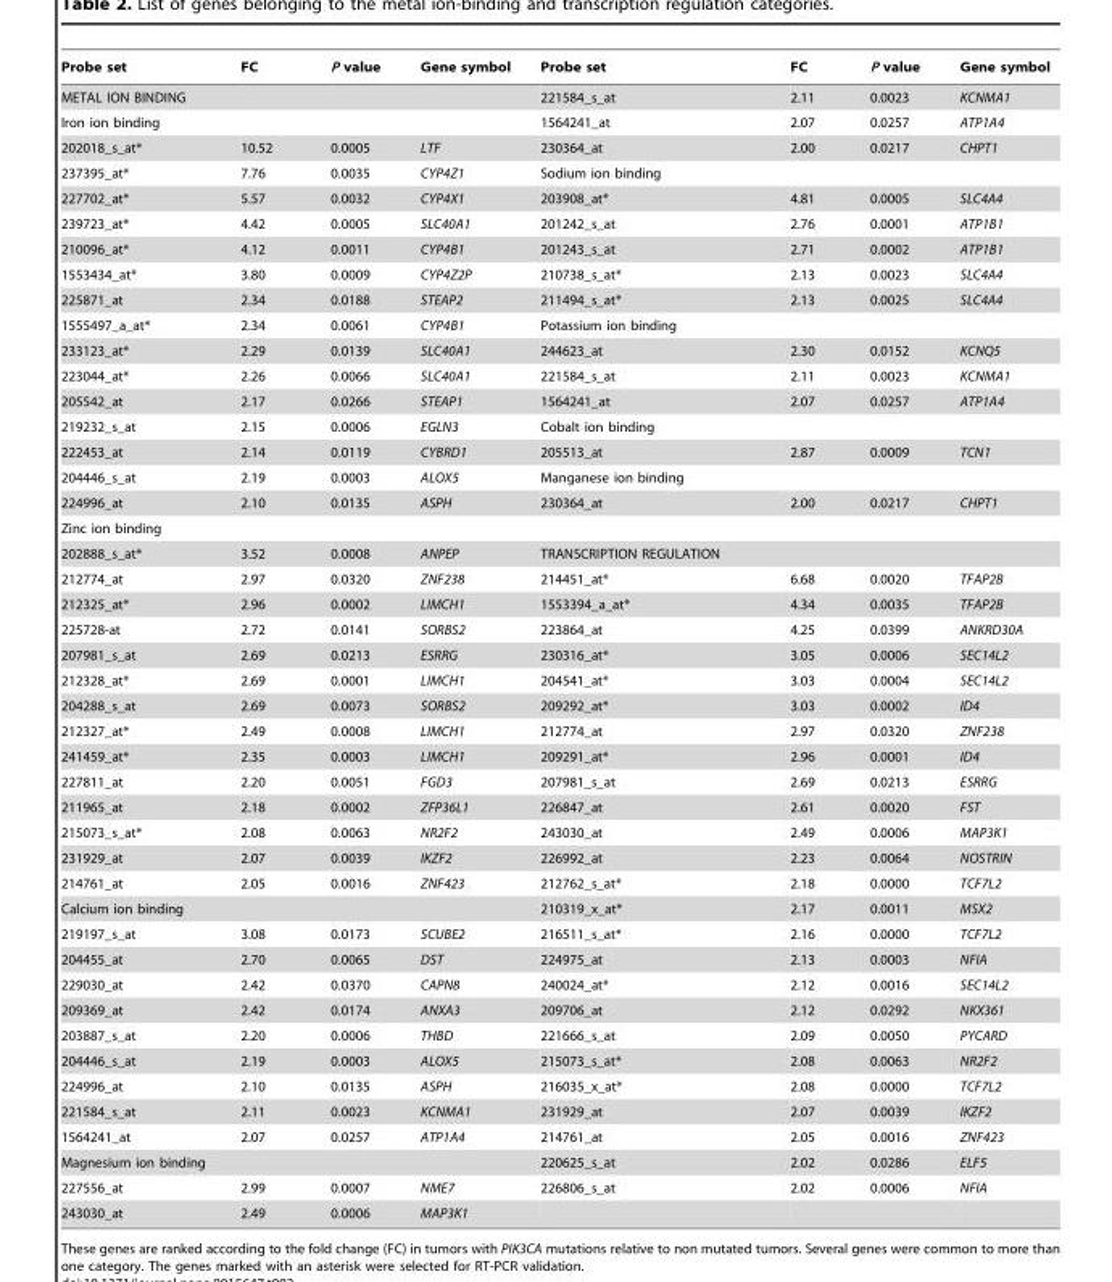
<table><thead><tr><td>Probe set</td><td>FC</td><td>P value</td><td>Gene symbol</td><td>Probe set</td><td>FC</td><td>P value</td><td>Gene symbol</td></tr></thead><tbody><tr><td colspan="4">METAL ION BINDING</td><td>221584_s_at</td><td>2.11</td><td>0.0023</td><td>KCNMA1</td></tr><tr><td colspan="4">Iron ion binding</td><td>1564241_at</td><td>2.07</td><td>0.0257</td><td>ATP1A4</td></tr><tr><td>202018_s_at*</td><td>10.52</td><td>0.0005</td><td>LTF</td><td>230364_at</td><td>2.00</td><td>0.0217</td><td>CHPT1</td></tr><tr><td>237395_at*</td><td>7.76</td><td>0.0035</td><td>CYP4Z1</td><td colspan="4">Sodium ion binding</td></tr><tr><td>227702_at*</td><td>5.57</td><td>0.0032</td><td>CYP4X1</td><td>203908_at*</td><td>4.81</td><td>0.0005</td><td>SLC4A4</td></tr><tr><td>239723_at*</td><td>4.42</td><td>0.0005</td><td>SLC40A1</td><td>201242_s_at</td><td>2.76</td><td>0.0001</td><td>ATP1B1</td></tr><tr><td>210096_at*</td><td>4.12</td><td>0.0011</td><td>CYP4B1</td><td>201243_s_at</td><td>2.71</td><td>0.0002</td><td>ATP1B1</td></tr><tr><td>1553434_at*</td><td>3.80</td><td>0.0009</td><td>CYP4Z2P</td><td>210738_s_at*</td><td>2.13</td><td>0.0023</td><td>SLC4A4</td></tr><tr><td>225871_at</td><td>2.34</td><td>0.0188</td><td>STEAP2</td><td>211494_s_at*</td><td>2.13</td><td>0.0025</td><td>SLC4A4</td></tr><tr><td>1555497_a_at*</td><td>2.34</td><td>0.0061</td><td>CYP4B1</td><td colspan="4">Potassium ion binding</td></tr><tr><td>233123_at*</td><td>2.29</td><td>0.0139</td><td>SLC40A1</td><td>244623_at</td><td>2.30</td><td>0.0152</td><td>KCNQ5</td></tr><tr><td>223044_at*</td><td>2.26</td><td>0.0066</td><td>SLC40A1</td><td>221584_s_at</td><td>2.11</td><td>0.0023</td><td>KCNMA1</td></tr><tr><td>205542_at</td><td>2.17</td><td>0.0266</td><td>STEAP1</td><td>1564241_at</td><td>2.07</td><td>0.0257</td><td>ATP1A4</td></tr><tr><td>219232_s_at</td><td>2.15</td><td>0.0006</td><td>EGLN3</td><td colspan="4">Cobalt ion binding</td></tr><tr><td>222453_at</td><td>2.14</td><td>0.0119</td><td>CYBRD1</td><td>205513_at</td><td>2.87</td><td>0.0009</td><td>TCN1</td></tr><tr><td>204446_s_at</td><td>2.19</td><td>0.0003</td><td>ALOX5</td><td colspan="4">Manganese ion binding</td></tr><tr><td>224996_at</td><td>2.10</td><td>0.0135</td><td>ASPH</td><td>230364_at</td><td>2.00</td><td>0.0217</td><td>CHPT1</td></tr><tr><td colspan="8">Zinc ion binding</td></tr><tr><td>202888_s_at*</td><td>3.52</td><td>0.0008</td><td>ANPEP</td><td colspan="4">TRANSCRIPTION REGULATION</td></tr><tr><td>212774_at</td><td>2.97</td><td>0.0320</td><td>ZNF238</td><td>214451_at*</td><td>6.68</td><td>0.0020</td><td>TFAP2B</td></tr><tr><td>212325_at*</td><td>2.96</td><td>0.0002</td><td>LIMCH1</td><td>1553394_a_at*</td><td>4.34</td><td>0.0035</td><td>TFAP2B</td></tr><tr><td>225728-at</td><td>2.72</td><td>0.0141</td><td>SORBS2</td><td>223864_at</td><td>4.25</td><td>0.0399</td><td>ANKRD30A</td></tr><tr><td>207981_s_at</td><td>2.69</td><td>0.0213</td><td>ESRRG</td><td>230316_at*</td><td>3.05</td><td>0.0006</td><td>SEC14L2</td></tr><tr><td>212328_at*</td><td>2.69</td><td>0.0001</td><td>LIMCH1</td><td>204541_at*</td><td>3.03</td><td>0.0004</td><td>SEC14L2</td></tr><tr><td>204288_s_at</td><td>2.69</td><td>0.0073</td><td>SORBS2</td><td>209292_at*</td><td>3.03</td><td>0.0002</td><td>ID4</td></tr><tr><td>212327_at*</td><td>2.49</td><td>0.0008</td><td>LIMCH1</td><td>212774_at</td><td>2.97</td><td>0.0320</td><td>ZNF238</td></tr><tr><td>241459_at*</td><td>2.35</td><td>0.0003</td><td>LIMCH1</td><td>209291_at*</td><td>2.96</td><td>0.0001</td><td>ID4</td></tr><tr><td>227811_at</td><td>2.20</td><td>0.0051</td><td>FGD3</td><td>207981_s_at</td><td>2.69</td><td>0.0213</td><td>ESRRG</td></tr><tr><td>211965_at</td><td>2.18</td><td>0.0002</td><td>ZFP36L1</td><td>226847_at</td><td>2.61</td><td>0.0020</td><td>FST</td></tr><tr><td>215073_s_at*</td><td>2.08</td><td>0.0063</td><td>NR2F2</td><td>243030_at</td><td>2.49</td><td>0.0006</td><td>MAP3K1</td></tr><tr><td>231929_at</td><td>2.07</td><td>0.0039</td><td>IKZF2</td><td>226992_at</td><td>2.23</td><td>0.0064</td><td>NOSTRIN</td></tr><tr><td>214761_at</td><td>2.05</td><td>0.0016</td><td>ZNF423</td><td>212762_s_at*</td><td>2.18</td><td>0.0000</td><td>TCF7L2</td></tr><tr><td colspan="4">Calcium ion binding</td><td>210319_x_at*</td><td>2.17</td><td>0.0011</td><td>MSX2</td></tr><tr><td>219197_s_at</td><td>3.08</td><td>0.0173</td><td>SCUBE2</td><td>216511_s_at*</td><td>2.16</td><td>0.0000</td><td>TCF7L2</td></tr><tr><td>204455_at</td><td>2.70</td><td>0.0065</td><td>DST</td><td>224975_at</td><td>2.13</td><td>0.0003</td><td>NFIA</td></tr><tr><td>229030_at</td><td>2.42</td><td>0.0370</td><td>CAPN8</td><td>240024_at*</td><td>2.12</td><td>0.0016</td><td>SEC14L2</td></tr><tr><td>209369_at</td><td>2.42</td><td>0.0174</td><td>ANXA3</td><td>209706_at</td><td>2.12</td><td>0.0292</td><td>NKX361</td></tr><tr><td>203887_s_at</td><td>2.20</td><td>0.0006</td><td>THBD</td><td>221666_s_at</td><td>2.09</td><td>0.0050</td><td>PYCARD</td></tr><tr><td>204446_s_at</td><td>2.19</td><td>0.0003</td><td>ALOX5</td><td>215073_s_at*</td><td>2.08</td><td>0.0063</td><td>NR2F2</td></tr><tr><td>224996_at</td><td>2.10</td><td>0.0135</td><td>ASPH</td><td>216035_x_at*</td><td>2.08</td><td>0.0000</td><td>TCF7L2</td></tr><tr><td>221584_s_at</td><td>2.11</td><td>0.0023</td><td>KCNMA1</td><td>231929_at</td><td>2.07</td><td>0.0039</td><td>IKZF2</td></tr><tr><td>1564241_at</td><td>2.07</td><td>0.0257</td><td>ATP1A4</td><td>214761_at</td><td>2.05</td><td>0.0016</td><td>ZNF423</td></tr><tr><td colspan="4">Magnesium ion binding</td><td>220625_s_at</td><td>2.02</td><td>0.0286</td><td>ELF5</td></tr><tr><td>227556_at</td><td>2.99</td><td>0.0007</td><td>NME7</td><td>226806_s_at</td><td>2.02</td><td>0.0006</td><td>NFIA</td></tr><tr><td>243030_at</td><td>2.49</td><td>0.0006</td><td>MAP3K1</td><td></td><td></td><td></td><td></td></tr></tbody></table>